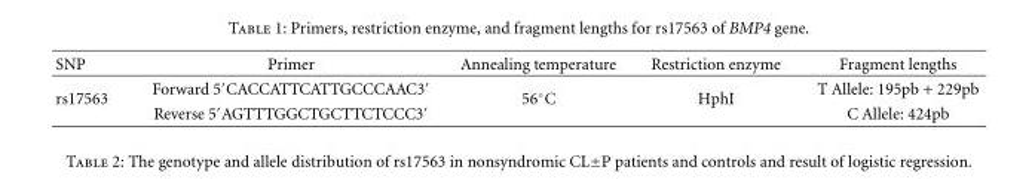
<table><thead><tr><td>SNP</td><td>Primer</td><td>Annealing temperature</td><td>Restriction enzyme</td><td>Fragment lengths</td></tr></thead><tbody><tr><td rowspan="2">rs17563</td><td>Forward 5′CACCATTCATTGCCCAAC3′</td><td rowspan="2">56◦C</td><td rowspan="2">HphI</td><td>T Allele: 195pb + 229pb</td></tr><tr><td>Reverse 5′AGTTTGGCTGCTTCTCCC3′</td><td>C Allele: 424pb</td></tr></tbody></table>